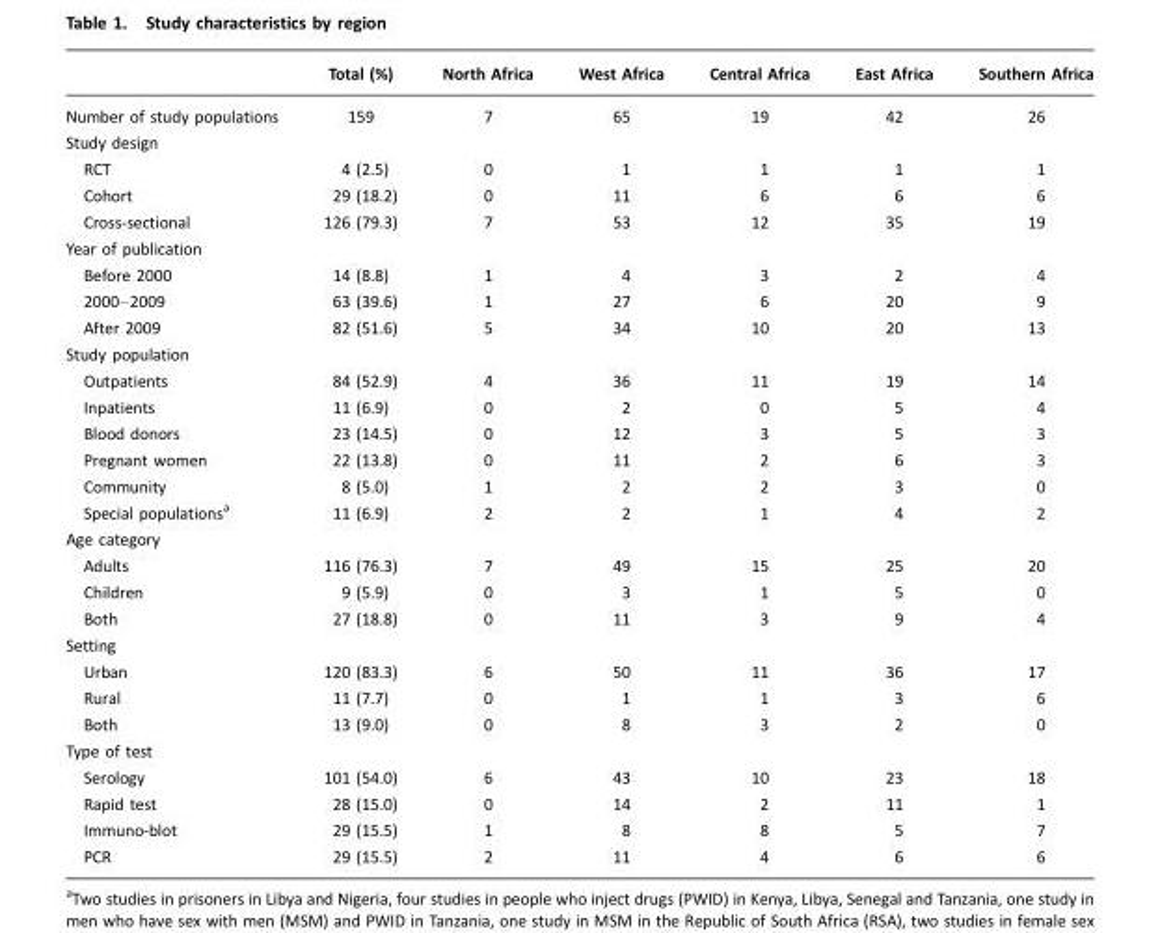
<table><thead><tr><td></td><td>Total (%)</td><td>North Africa</td><td>West Africa</td><td>Central Africa</td><td>East Africa</td><td>Southern Africa</td></tr></thead><tbody><tr><td>Number of study populations</td><td>159</td><td>7</td><td>65</td><td>19</td><td>42</td><td>26</td></tr><tr><td colspan="7">Study design</td></tr><tr><td>RCT</td><td>4 (2.5)</td><td>0</td><td>1</td><td>1</td><td>1</td><td>1</td></tr><tr><td>Cohort</td><td>29 (18.2)</td><td>0</td><td>11</td><td>6</td><td>6</td><td>6</td></tr><tr><td>Cross-sectional</td><td>126 (79.3)</td><td>7</td><td>53</td><td>12</td><td>35</td><td>19</td></tr><tr><td colspan="7">Year of publication</td></tr><tr><td>Before 2000</td><td>14 (8.8)</td><td>1</td><td>4</td><td>3</td><td>2</td><td>4</td></tr><tr><td>2000–2009</td><td>63 (39.6)</td><td>1</td><td>27</td><td>6</td><td>20</td><td>9</td></tr><tr><td>After 2009</td><td>82 (51.6)</td><td>5</td><td>34</td><td>10</td><td>20</td><td>13</td></tr><tr><td colspan="7">Study population</td></tr><tr><td>Outpatients</td><td>84 (52.9)</td><td>4</td><td>36</td><td>11</td><td>19</td><td>14</td></tr><tr><td>Inpatients</td><td>11 (6.9)</td><td>0</td><td>2</td><td>0</td><td>5</td><td>4</td></tr><tr><td>Blood donors</td><td>23 (14.5)</td><td>0</td><td>12</td><td>3</td><td>5</td><td>3</td></tr><tr><td>Pregnant women</td><td>22 (13.8)</td><td>0</td><td>11</td><td>2</td><td>6</td><td>3</td></tr><tr><td>Community</td><td>8 (5.0)</td><td>1</td><td>2</td><td>2</td><td>3</td><td>0</td></tr><tr><td>Special populations<sup>a</sup></td><td>11 (6.9)</td><td>2</td><td>2</td><td>1</td><td>4</td><td>2</td></tr><tr><td colspan="7">Age category</td></tr><tr><td>Adults</td><td>116 (76.3)</td><td>7</td><td>49</td><td>15</td><td>25</td><td>20</td></tr><tr><td>Children</td><td>9 (5.9)</td><td>0</td><td>3</td><td>1</td><td>5</td><td>0</td></tr><tr><td>Both</td><td>27 (18.8)</td><td>0</td><td>11</td><td>3</td><td>9</td><td>4</td></tr><tr><td colspan="7">Setting</td></tr><tr><td>Urban</td><td>120 (83.3)</td><td>6</td><td>50</td><td>11</td><td>36</td><td>17</td></tr><tr><td>Rural</td><td>11 (7.7)</td><td>0</td><td>1</td><td>1</td><td>3</td><td>6</td></tr><tr><td>Both</td><td>13 (9.0)</td><td>0</td><td>8</td><td>3</td><td>2</td><td>0</td></tr><tr><td colspan="7">Type of test</td></tr><tr><td>Serology</td><td>101 (54.0)</td><td>6</td><td>43</td><td>10</td><td>23</td><td>18</td></tr><tr><td>Rapid test</td><td>28 (15.0)</td><td>0</td><td>14</td><td>2</td><td>11</td><td>1</td></tr><tr><td>Immuno-blot</td><td>29 (15.5)</td><td>1</td><td>8</td><td>8</td><td>5</td><td>7</td></tr><tr><td>PCR</td><td>29 (15.5)</td><td>2</td><td>11</td><td>4</td><td>6</td><td>6</td></tr></tbody></table>